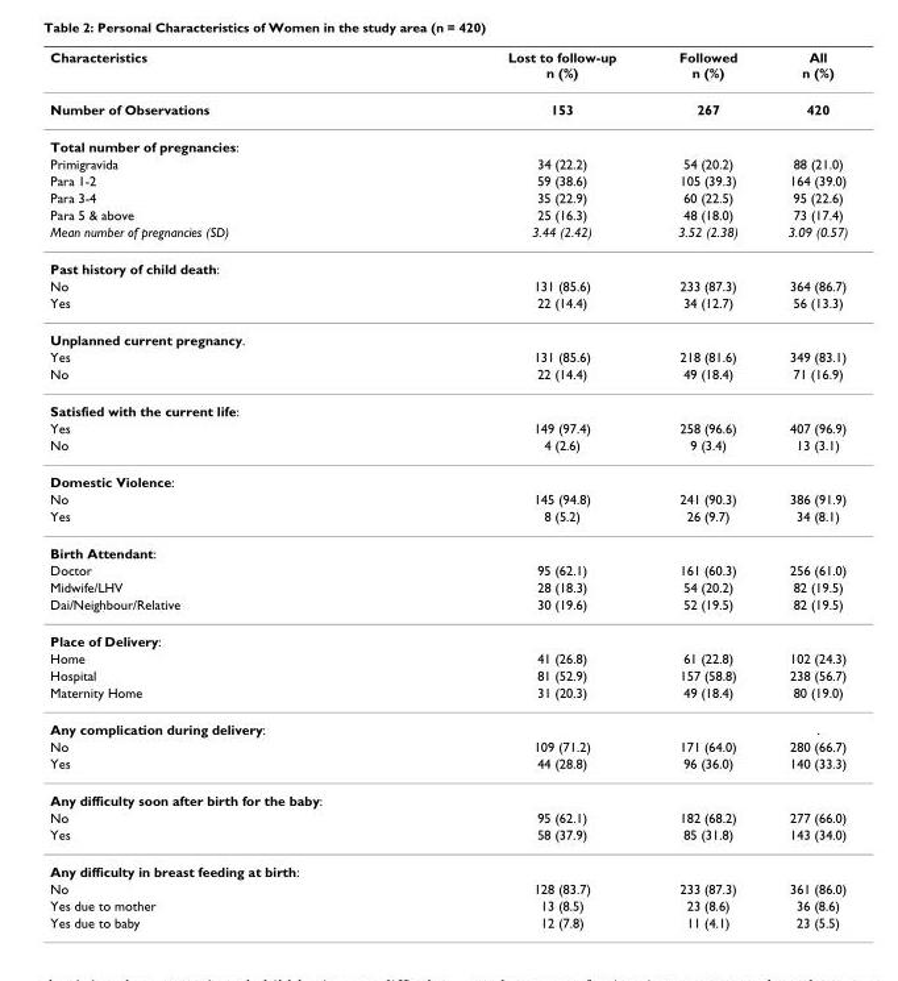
<table><thead><tr><td>Characteristics</td><td>Lost to follow-up n (%)</td><td>Followed n (%)</td><td>All n (%)</td></tr></thead><tbody><tr><td>Number of Observations</td><td>153</td><td>267</td><td>420</td></tr><tr><td colspan="4">Total number of pregnancies:</td></tr><tr><td>Primigravida</td><td>34 (22.2)</td><td>54 (20.2)</td><td>88 (21.0)</td></tr><tr><td>Para 1-2</td><td>59 (38.6)</td><td>105 (39.3)</td><td>164 (39.0)</td></tr><tr><td>Para 3-4</td><td>35 (22.9)</td><td>60 (22.5)</td><td>95 (22.6)</td></tr><tr><td>Para 5 &amp; above</td><td>25 (16.3)</td><td>48 (18.0)</td><td>73 (17.4)</td></tr><tr><td>Mean number of pregnancies (SD)</td><td>3.44 (2.42)</td><td>3.52 (2.38)</td><td>3.09 (0.57)</td></tr><tr><td colspan="4">Past history of child death:</td></tr><tr><td>No</td><td>131 (85.6)</td><td>233 (87.3)</td><td>364 (86.7)</td></tr><tr><td>Yes</td><td>22 (14.4)</td><td>34 (12.7)</td><td>56 (13.3)</td></tr><tr><td colspan="4">Unplanned current pregnancy.</td></tr><tr><td>Yes</td><td>131 (85.6)</td><td>218 (81.6)</td><td>349 (83.1)</td></tr><tr><td>No</td><td>22 (14.4)</td><td>49 (18.4)</td><td>71 (16.9)</td></tr><tr><td colspan="4">Satisfied with the current life:</td></tr><tr><td>Yes</td><td>149 (97.4)</td><td>258 (96.6)</td><td>407 (96.9)</td></tr><tr><td>No</td><td>4 (2.6)</td><td>9 (3.4)</td><td>13 (3.1)</td></tr><tr><td colspan="4">Domestic Violence:</td></tr><tr><td>No</td><td>145 (94.8)</td><td>241 (90.3)</td><td>386 (91.9)</td></tr><tr><td>Yes</td><td>8 (5.2)</td><td>26 (9.7)</td><td>34 (8.1)</td></tr><tr><td colspan="4">Birth Attendant:</td></tr><tr><td>Doctor</td><td>95 (62.1)</td><td>161 (60.3)</td><td>256 (61.0)</td></tr><tr><td>Midwife/LHV</td><td>28 (18.3)</td><td>54 (20.2)</td><td>82 (19.5)</td></tr><tr><td>Dai/Neighbour/Relative</td><td>30 (19.6)</td><td>52 (19.5)</td><td>82 (19.5)</td></tr><tr><td colspan="4">Place of Delivery:</td></tr><tr><td>Home</td><td>41 (26.8)</td><td>61 (22.8)</td><td>102 (24.3)</td></tr><tr><td>Hospital</td><td>81 (52.9)</td><td>157 (58.8)</td><td>238 (56.7)</td></tr><tr><td>Maternity Home</td><td>31 (20.3)</td><td>49 (18.4)</td><td>80 (19.0)</td></tr><tr><td>Any complication during delivery:</td><td></td><td></td><td>.</td></tr><tr><td>No</td><td>109 (71.2)</td><td>171 (64.0)</td><td>280 (66.7)</td></tr><tr><td>Yes</td><td>44 (28.8)</td><td>96 (36.0)</td><td>140 (33.3)</td></tr><tr><td colspan="4">Any difficulty soon after birth for the baby:</td></tr><tr><td>No</td><td>95 (62.1)</td><td>182 (68.2)</td><td>277 (66.0)</td></tr><tr><td>Yes</td><td>58 (37.9)</td><td>85 (31.8)</td><td>143 (34.0)</td></tr><tr><td colspan="4">Any difficulty in breast feeding at birth:</td></tr><tr><td>No</td><td>128 (83.7)</td><td>233 (87.3)</td><td>361 (86.0)</td></tr><tr><td>Yes due to mother</td><td>13 (8.5)</td><td>23 (8.6)</td><td>36 (8.6)</td></tr><tr><td>Yes due to baby</td><td>12 (7.8)</td><td>11 (4.1)</td><td>23 (5.5)</td></tr></tbody></table>